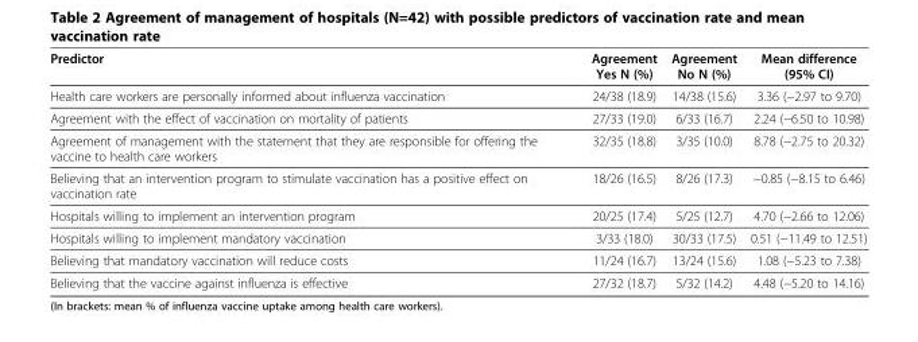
<table><thead><tr><td>Predictor</td><td>Agreement Yes N (%)</td><td>Agreement No N (%)</td><td>Mean difference (95% CI)</td></tr></thead><tbody><tr><td>Health care workers are personally informed about influenza vaccination</td><td>24/38 (18.9)</td><td>14/38 (15.6)</td><td>3.36 (−2.97 to 9.70)</td></tr><tr><td>Agreement with the effect of vaccination on mortality of patients</td><td>27/33 (19.0)</td><td>6/33 (16.7)</td><td>2.24 (−6.50 to 10.98)</td></tr><tr><td>Agreement of management with the statement that they are responsible for offering the vaccine to health care workers</td><td>32/35 (18.8)</td><td>3/35 (10.0)</td><td>8.78 (−2.75 to 20.32)</td></tr><tr><td>Believing that an intervention program to stimulate vaccination has a positive effect on vaccination rate</td><td>18/26 (16.5)</td><td>8/26 (17.3)</td><td>−0.85 (−8.15 to 6.46)</td></tr><tr><td>Hospitals willing to implement an intervention program</td><td>20/25 (17.4)</td><td>5/25 (12.7)</td><td>4.70 (−2.66 to 12.06)</td></tr><tr><td>Hospitals willing to implement mandatory vaccination</td><td>3/33 (18.0)</td><td>30/33 (17.5)</td><td>0.51 (−11.49 to 12.51)</td></tr><tr><td>Believing that mandatory vaccination will reduce costs</td><td>11/24 (16.7)</td><td>13/24 (15.6)</td><td>1.08 (−5.23 to 7.38)</td></tr><tr><td>Believing that the vaccine against influenza is effective</td><td>27/32 (18.7)</td><td>5/32 (14.2)</td><td>4.48 (−5.20 to 14.16)</td></tr></tbody></table>